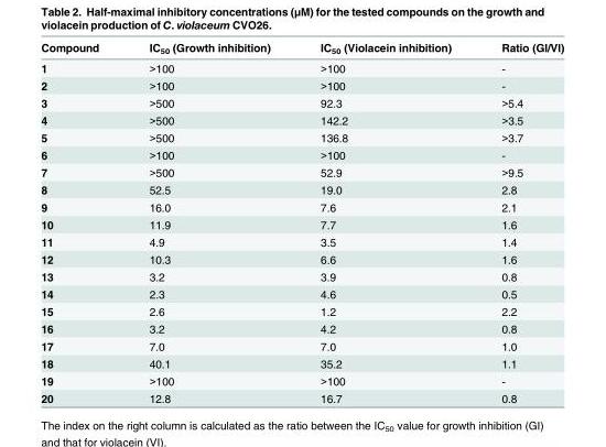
<table><thead><tr><td>Compound</td><td>IC<sub>50</sub> (Growth inhibition)</td><td>IC<sub>50</sub> (Violacein inhibition)</td><td>Ratio (GI/VI)</td></tr></thead><tbody><tr><td>1</td><td>&gt;100</td><td>&gt;100</td><td>-</td></tr><tr><td>2</td><td>&gt;100</td><td>&gt;100</td><td>-</td></tr><tr><td>3</td><td>&gt;500</td><td>92.3</td><td>&gt;5.4</td></tr><tr><td>4</td><td>&gt;500</td><td>142.2</td><td>&gt;3.5</td></tr><tr><td>5</td><td>&gt;500</td><td>136.8</td><td>&gt;3.7</td></tr><tr><td>6</td><td>&gt;100</td><td>&gt;100</td><td>-</td></tr><tr><td>7</td><td>&gt;500</td><td>52.9</td><td>&gt;9.5</td></tr><tr><td>8</td><td>52.5</td><td>19.0</td><td>2.8</td></tr><tr><td>9</td><td>16.0</td><td>7.6</td><td>2.1</td></tr><tr><td>10</td><td>11.9</td><td>7.7</td><td>1.6</td></tr><tr><td>11</td><td>4.9</td><td>3.5</td><td>1.4</td></tr><tr><td>12</td><td>10.3</td><td>6.6</td><td>1.6</td></tr><tr><td>13</td><td>3.2</td><td>3.9</td><td>0.8</td></tr><tr><td>14</td><td>2.3</td><td>4.6</td><td>0.5</td></tr><tr><td>15</td><td>2.6</td><td>1.2</td><td>2.2</td></tr><tr><td>16</td><td>3.2</td><td>4.2</td><td>0.8</td></tr><tr><td>17</td><td>7.0</td><td>7.0</td><td>1.0</td></tr><tr><td>18</td><td>40.1</td><td>35.2</td><td>1.1</td></tr><tr><td>19</td><td>&gt;100</td><td>&gt;100</td><td>-</td></tr><tr><td>20</td><td>12.8</td><td>16.7</td><td>0.8</td></tr></tbody></table>